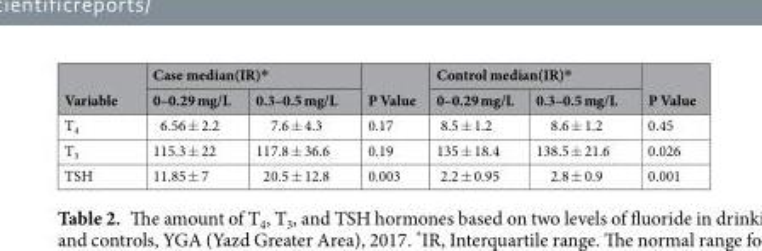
<table><thead><tr><td rowspan="2">Variable</td><td colspan="2">Case median(IR)*</td><td rowspan="2">P Value</td><td colspan="2">Control median(IR)*</td><td rowspan="2">P Value</td></tr><tr><td>0–0.29 mg/L</td><td>0.3–0.5 mg/L</td><td>0–0.29 mg/L</td><td>0.3–0.5 mg/L</td></tr></thead><tbody><tr><td>T<sub>4</sub></td><td>6.56 ± 2.2</td><td>7.6 ± 4.3</td><td>0.17</td><td>8.5 ± 1.2</td><td>8.6 ± 1.2</td><td>0.45</td></tr><tr><td>T<sub>3</sub></td><td>115.3 ± 22</td><td>117.8 ± 36.6</td><td>0.19</td><td>135 ± 18.4</td><td>138.5 ± 21.6</td><td>0.026</td></tr><tr><td>TSH</td><td>11.85 ± 7</td><td>20.5 ± 12.8</td><td>0.003</td><td>2.2 ± 0.95</td><td>2.8 ± 0.9</td><td>0.001</td></tr></tbody></table>